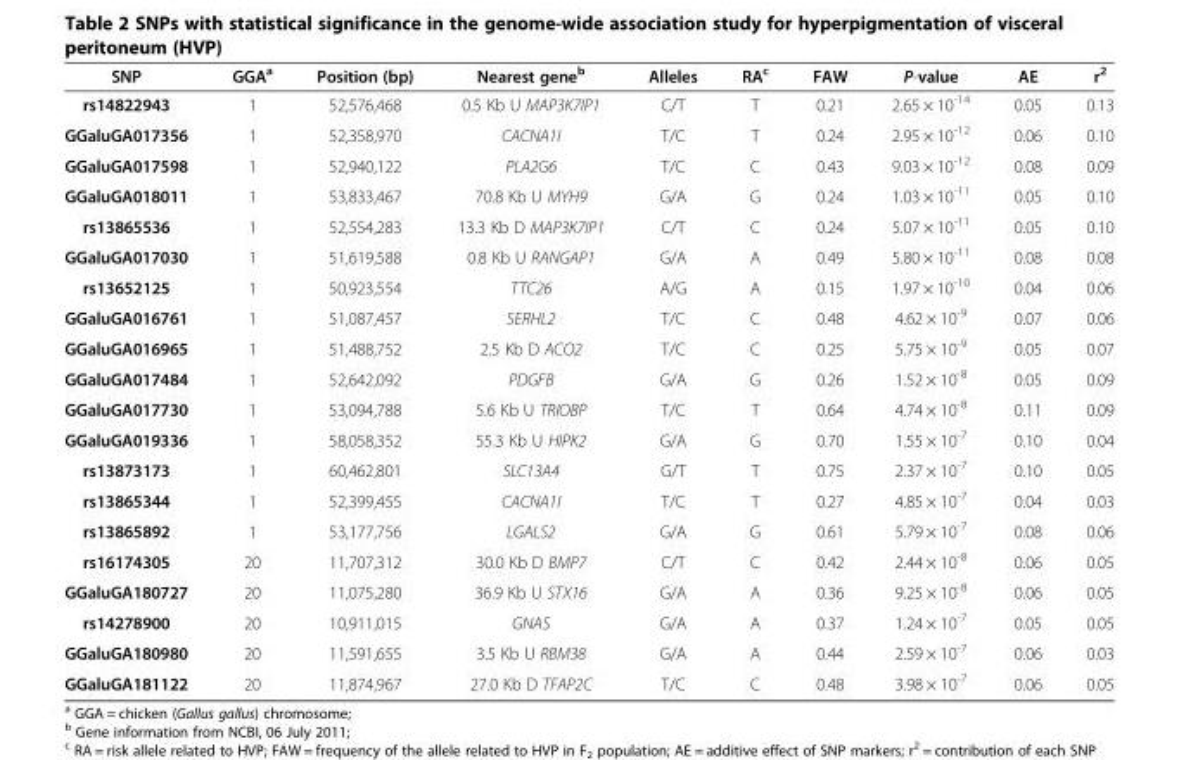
<table><thead><tr><td>SNP</td><td>GGA<sup>a</sup></td><td>Position (bp)</td><td>Nearest gene<sup>b</sup></td><td>Alleles</td><td>RA<sup>c</sup></td><td>FAW</td><td>P-value</td><td>AE</td><td>r<sup>2</sup></td></tr></thead><tbody><tr><td>rs14822943</td><td>1</td><td>52,576,468</td><td>0.5 Kb U MAP3K7IP1</td><td>C/T</td><td>T</td><td>0.21</td><td>2.65 × 10<sup>-14</sup></td><td>0.05</td><td>0.13</td></tr><tr><td>GGaluGA017356</td><td>1</td><td>52,358,970</td><td>CACNA1I</td><td>T/C</td><td>T</td><td>0.24</td><td>2.95 × 10<sup>-12</sup></td><td>0.06</td><td>0.10</td></tr><tr><td>GGaluGA017598</td><td>1</td><td>52,940,122</td><td>PLA2G6</td><td>T/C</td><td>C</td><td>0.43</td><td>9.03 × 10<sup>-12</sup></td><td>0.08</td><td>0.09</td></tr><tr><td>GGaluGA018011</td><td>1</td><td>53,833,467</td><td>70.8 Kb U MYH9</td><td>G/A</td><td>G</td><td>0.24</td><td>1.03 × 10<sup>-11</sup></td><td>0.05</td><td>0.10</td></tr><tr><td>rs13865536</td><td>1</td><td>52,554,283</td><td>13.3 Kb D MAP3K7IP1</td><td>C/T</td><td>C</td><td>0.24</td><td>5.07 × 10<sup>-11</sup></td><td>0.05</td><td>0.10</td></tr><tr><td>GGaluGA017030</td><td>1</td><td>51,619,588</td><td>0.8 Kb U RANGAP1</td><td>G/A</td><td>A</td><td>0.49</td><td>5.80 × 10<sup>-11</sup></td><td>0.08</td><td>0.08</td></tr><tr><td>rs13652125</td><td>1</td><td>50,923,554</td><td>TTC26</td><td>A/G</td><td>A</td><td>0.15</td><td>1.97 × 10<sup>-10</sup></td><td>0.04</td><td>0.06</td></tr><tr><td>GGaluGA016761</td><td>1</td><td>51,087,457</td><td>SERHL2</td><td>T/C</td><td>C</td><td>0.48</td><td>4.62 × 10<sup>-9</sup></td><td>0.07</td><td>0.06</td></tr><tr><td>GGaluGA016965</td><td>1</td><td>51,488,752</td><td>2.5 Kb D ACO2</td><td>T/C</td><td>C</td><td>0.25</td><td>5.75 × 10<sup>-9</sup></td><td>0.05</td><td>0.07</td></tr><tr><td>GGaluGA017484</td><td>1</td><td>52,642,092</td><td>PDGFB</td><td>G/A</td><td>G</td><td>0.26</td><td>1.52 × 10<sup>-8</sup></td><td>0.05</td><td>0.09</td></tr><tr><td>GGaluGA017730</td><td>1</td><td>53,094,788</td><td>5.6 Kb U TRIOBP</td><td>T/C</td><td>T</td><td>0.64</td><td>4.74 × 10<sup>-8</sup></td><td>0.11</td><td>0.09</td></tr><tr><td>GGaluGA019336</td><td>1</td><td>58,058,352</td><td>55.3 Kb U HIPK2</td><td>G/A</td><td>G</td><td>0.70</td><td>1.55 × 10<sup>-7</sup></td><td>0.10</td><td>0.04</td></tr><tr><td>rs13873173</td><td>1</td><td>60,462,801</td><td>SLC13A4</td><td>G/T</td><td>T</td><td>0.75</td><td>2.37 × 10<sup>-7</sup></td><td>0.10</td><td>0.05</td></tr><tr><td>rs13865344</td><td>1</td><td>52,399,455</td><td>CACNA1I</td><td>T/C</td><td>T</td><td>0.27</td><td>4.85 × 10<sup>-7</sup></td><td>0.04</td><td>0.03</td></tr><tr><td>rs13865892</td><td>1</td><td>53,177,756</td><td>LGALS2</td><td>G/A</td><td>G</td><td>0.61</td><td>5.79 × 10<sup>-7</sup></td><td>0.08</td><td>0.06</td></tr><tr><td>rs16174305</td><td>20</td><td>11,707,312</td><td>30.0 Kb D BMP7</td><td>C/T</td><td>C</td><td>0.42</td><td>2.44 × 10<sup>-8</sup></td><td>0.06</td><td>0.05</td></tr><tr><td>GGaluGA180727</td><td>20</td><td>11,075,280</td><td>36.9 Kb U STX16</td><td>G/A</td><td>A</td><td>0.36</td><td>9.25 × 10<sup>-8</sup></td><td>0.06</td><td>0.05</td></tr><tr><td>rs14278900</td><td>20</td><td>10,911,015</td><td>GNAS</td><td>G/A</td><td>A</td><td>0.37</td><td>1.24 × 10<sup>-7</sup></td><td>0.05</td><td>0.05</td></tr><tr><td>GGaluGA180980</td><td>20</td><td>11,591,655</td><td>3.5 Kb U RBM38</td><td>G/A</td><td>A</td><td>0.44</td><td>2.59 × 10<sup>-7</sup></td><td>0.06</td><td>0.03</td></tr><tr><td>GGaluGA181122</td><td>20</td><td>11,874,967</td><td>27.0 Kb D TFAP2C</td><td>T/C</td><td>C</td><td>0.48</td><td>3.98 × 10<sup>-7</sup></td><td>0.06</td><td>0.05</td></tr></tbody></table>